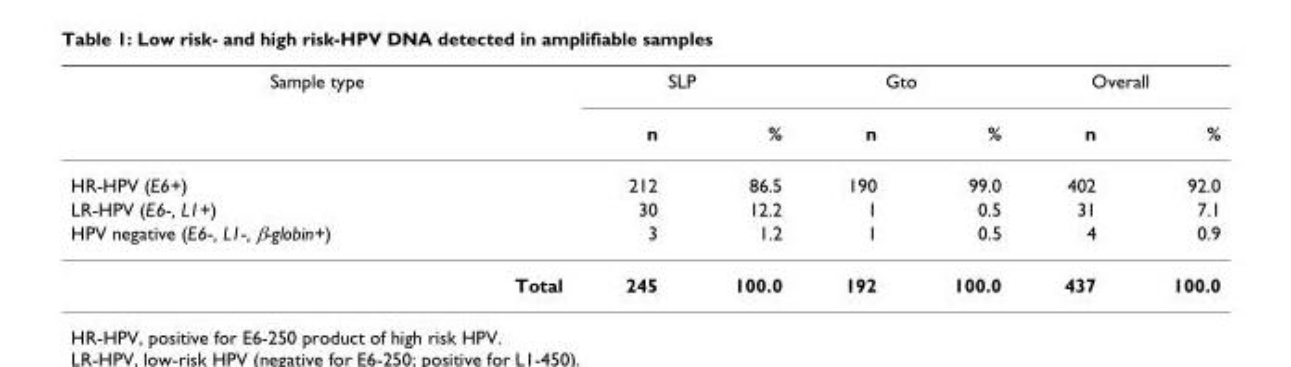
<table><thead><tr><td rowspan="2">Sample type</td><td colspan="2">SLP</td><td colspan="2">Gto</td><td colspan="2">Overall</td></tr><tr><td>n</td><td>%</td><td>n</td><td>%</td><td>n</td><td>%</td></tr></thead><tbody><tr><td>HR-HPV (E6+)</td><td>212</td><td>86.5</td><td>190</td><td>99.0</td><td>402</td><td>92.0</td></tr><tr><td>LR-HPV (E6-, L1+)</td><td>30</td><td>12.2</td><td>1</td><td>0.5</td><td>31</td><td>7.1</td></tr><tr><td>HPV negative (E6-, L1-, β-globin+)</td><td>3</td><td>1.2</td><td>1</td><td>0.5</td><td>4</td><td>0.9</td></tr><tr><td>Total</td><td>245</td><td>100.0</td><td>192</td><td>100.0</td><td>437</td><td>100.0</td></tr></tbody></table>